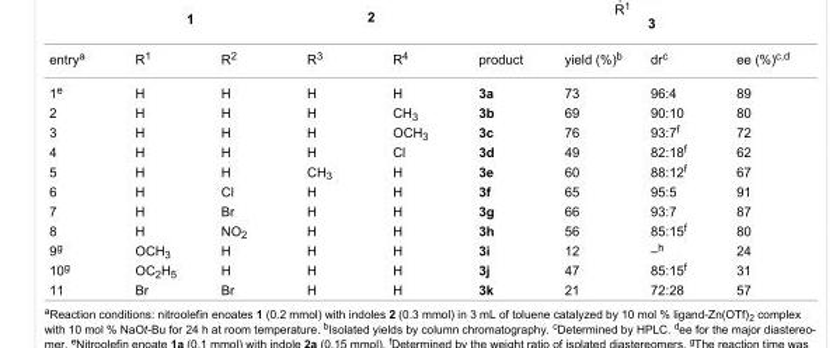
<table><tbody><tr><td>entry<sup>a</sup></td><td>R<sup>1</sup></td><td>R<sup>2</sup></td><td>R<sup>3</sup></td><td>R<sup>4</sup></td><td>product</td><td>yield (%)<sup>b</sup></td><td>dr<sup>c</sup></td><td>ee (%)<sup>c,d</sup></td></tr><tr><td>1<sup>e</sup></td><td>H</td><td>H</td><td>H</td><td>H</td><td>3a</td><td>73</td><td>96:4</td><td>89</td></tr><tr><td>2</td><td>H</td><td>H</td><td>H</td><td>CH<sub>3</sub></td><td>3b</td><td>69</td><td>90:10</td><td>80</td></tr><tr><td>3</td><td>H</td><td>H</td><td>H</td><td>OCH<sub>3</sub></td><td>3c</td><td>76</td><td>93:7<sup>f</sup></td><td>72</td></tr><tr><td>4</td><td>H</td><td>H</td><td>H</td><td>Cl</td><td>3d</td><td>49</td><td>82:18<sup>f</sup></td><td>62</td></tr><tr><td>5</td><td>H</td><td>H</td><td>CH<sub>3</sub></td><td>H</td><td>3e</td><td>60</td><td>88:12<sup>f</sup></td><td>67</td></tr><tr><td>6</td><td>H</td><td>Cl</td><td>H</td><td>H</td><td>3f</td><td>65</td><td>95:5</td><td>91</td></tr><tr><td>7</td><td>H</td><td>Br</td><td>H</td><td>H</td><td>3g</td><td>66</td><td>93:7</td><td>87</td></tr><tr><td>8</td><td>H</td><td>NO<sub>2</sub></td><td>H</td><td>H</td><td>3h</td><td>56</td><td>85:15<sup>f</sup></td><td>80</td></tr><tr><td>9<sup>g</sup></td><td>OCH<sub>3</sub></td><td>H</td><td>H</td><td>H</td><td>3i</td><td>12</td><td>–<sup>h</sup></td><td>24</td></tr><tr><td>10<sup>g</sup></td><td>OC<sub>2</sub>H<sub>5</sub></td><td>H</td><td>H</td><td>H</td><td>3j</td><td>47</td><td>85:15<sup>f</sup></td><td>31</td></tr><tr><td>11</td><td>Br</td><td>Br</td><td>H</td><td>H</td><td>3k</td><td>21</td><td>72:28</td><td>57</td></tr></tbody></table>